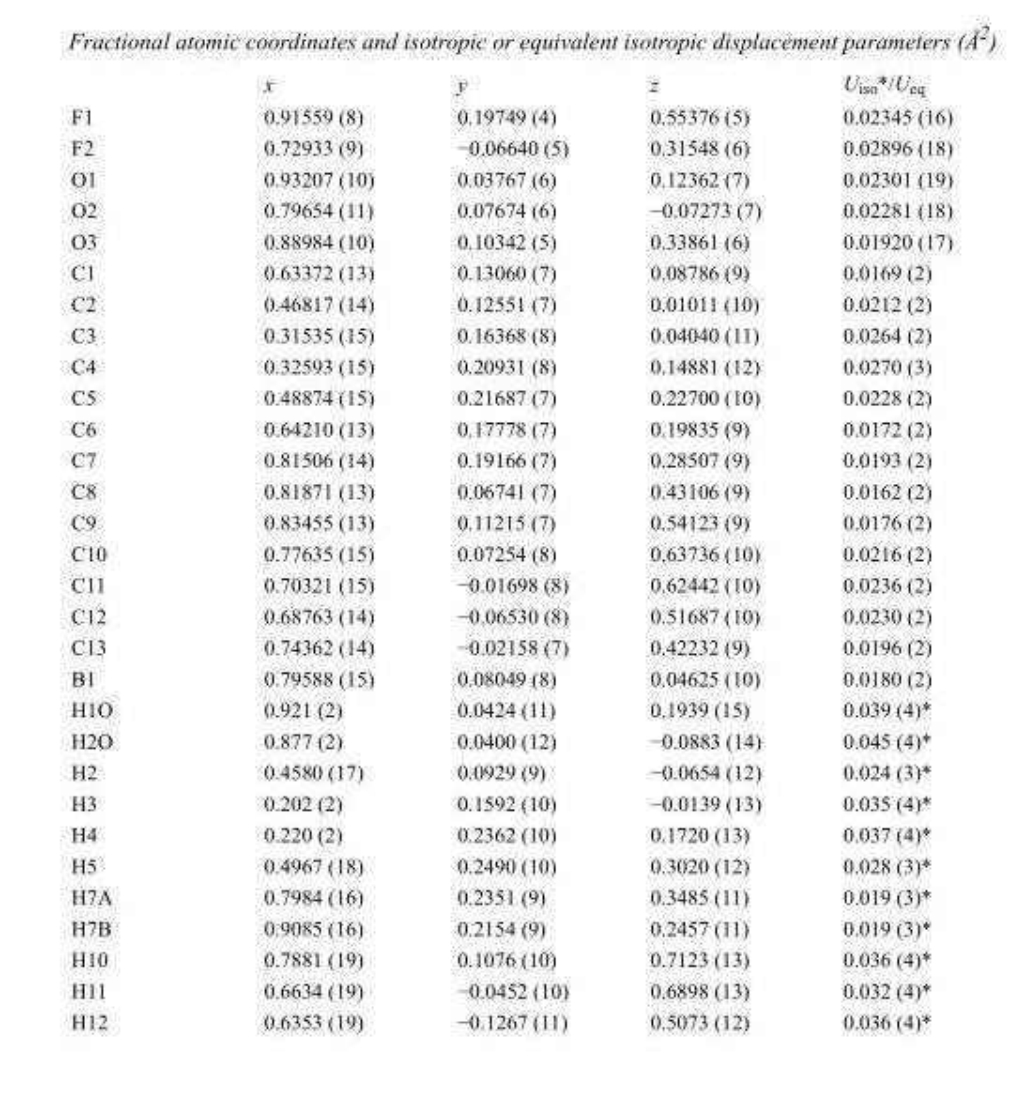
<table><thead><tr><td></td><td>x</td><td>y</td><td>z</td><td>U<sub>iso</sub>*/U<sub>eq</sub></td></tr></thead><tbody><tr><td>F1</td><td>0.91559 (8)</td><td>0.19749 (4)</td><td>0.55376 (5)</td><td>0.02345 (16)</td></tr><tr><td>F2</td><td>0.72933 (9)</td><td>−0.06640 (5)</td><td>0.31548 (6)</td><td>0.02896 (18)</td></tr><tr><td>O1</td><td>0.93207 (10)</td><td>0.03767 (6)</td><td>0.12362 (7)</td><td>0.02301 (19)</td></tr><tr><td>O2</td><td>0.79654 (11)</td><td>0.07674 (6)</td><td>−0.07273 (7)</td><td>0.02281 (18)</td></tr><tr><td>O3</td><td>0.88984 (10)</td><td>0.10342 (5)</td><td>0.33861 (6)</td><td>0.01920 (17)</td></tr><tr><td>C1</td><td>0.63372 (13)</td><td>0.13060 (7)</td><td>0.08786 (9)</td><td>0.0169 (2)</td></tr><tr><td>C2</td><td>0.46817 (14)</td><td>0.12551 (7)</td><td>0.01011 (10)</td><td>0.0212 (2)</td></tr><tr><td>C3</td><td>0.31535 (15)</td><td>0.16368 (8)</td><td>0.04040 (11)</td><td>0.0264 (2)</td></tr><tr><td>C4</td><td>0.32593 (15)</td><td>0.20931 (8)</td><td>0.14881 (12)</td><td>0.0270 (3)</td></tr><tr><td>C5</td><td>0.48874 (15)</td><td>0.21687 (7)</td><td>0.22700 (10)</td><td>0.0228 (2)</td></tr><tr><td>C6</td><td>0.64210 (13)</td><td>0.17778 (7)</td><td>0.19835 (9)</td><td>0.0172 (2)</td></tr><tr><td>C7</td><td>0.81506 (14)</td><td>0.19166 (7)</td><td>0.28507 (9)</td><td>0.0193 (2)</td></tr><tr><td>C8</td><td>0.81871 (13)</td><td>0.06741 (7)</td><td>0.43106 (9)</td><td>0.0162 (2)</td></tr><tr><td>C9</td><td>0.83455 (13)</td><td>0.11215 (7)</td><td>0.54123 (9)</td><td>0.0176 (2)</td></tr><tr><td>C10</td><td>0.77635 (15)</td><td>0.07254 (8)</td><td>0.63736 (10)</td><td>0.0216 (2)</td></tr><tr><td>C11</td><td>0.70321 (15)</td><td>−0.01698 (8)</td><td>0.62442 (10)</td><td>0.0236 (2)</td></tr><tr><td>C12</td><td>0.68763 (14)</td><td>−0.06530 (8)</td><td>0.51687 (10)</td><td>0.0230 (2)</td></tr><tr><td>C13</td><td>0.74362 (14)</td><td>−0.02158 (7)</td><td>0.42232 (9)</td><td>0.0196 (2)</td></tr><tr><td>B1</td><td>0.79588 (15)</td><td>0.08049 (8)</td><td>0.04625 (10)</td><td>0.0180 (2)</td></tr><tr><td>H1O</td><td>0.921 (2)</td><td>0.0424 (11)</td><td>0.1939 (15)</td><td>0.039 (4)*</td></tr><tr><td>H2O</td><td>0.877 (2)</td><td>0.0400 (12)</td><td>−0.0883 (14)</td><td>0.045 (4)*</td></tr><tr><td>H2</td><td>0.4580 (17)</td><td>0.0929 (9)</td><td>−0.0654 (12)</td><td>0.024 (3)*</td></tr><tr><td>H3</td><td>0.202 (2)</td><td>0.1592 (10)</td><td>−0.0139 (13)</td><td>0.035 (4)*</td></tr><tr><td>H4</td><td>0.220 (2)</td><td>0.2362 (10)</td><td>0.1720 (13)</td><td>0.037 (4)*</td></tr><tr><td>H5</td><td>0.4967 (18)</td><td>0.2490 (10)</td><td>0.3020 (12)</td><td>0.028 (3)*</td></tr><tr><td>H7A</td><td>0.7984 (16)</td><td>0.2351 (9)</td><td>0.3485 (11)</td><td>0.019 (3)*</td></tr><tr><td>H7B</td><td>0.9085 (16)</td><td>0.2154 (9)</td><td>0.2457 (11)</td><td>0.019 (3)*</td></tr><tr><td>H10</td><td>0.7881 (19)</td><td>0.1076 (10)</td><td>0.7123 (13)</td><td>0.036 (4)*</td></tr><tr><td>H11</td><td>0.6634 (19)</td><td>−0.0452 (10)</td><td>0.6898 (13)</td><td>0.032 (4)*</td></tr><tr><td>H12</td><td>0.6353 (19)</td><td>−0.1267 (11)</td><td>0.5073 (12)</td><td>0.036 (4)*</td></tr></tbody></table>